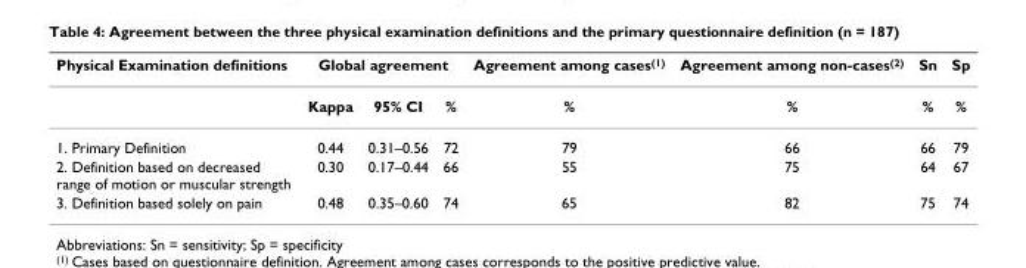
<table><thead><tr><td rowspan="2">Physical Examination definitions</td><td colspan="3">Global agreement</td><td rowspan="2">Agreement among cases(1) %</td><td rowspan="2">Agreement among non-cases(2) %</td><td rowspan="2">Sn %</td><td rowspan="2">Sp %</td></tr><tr><td>Kappa</td><td>95% CI</td><td>%</td></tr></thead><tbody><tr><td>1. Primary Definition</td><td>0.44</td><td>0.31–0.56</td><td>72</td><td>79</td><td>66</td><td>66</td><td>79</td></tr><tr><td>2. Definition based on decreased range of motion or muscular strength</td><td>0.30</td><td>0.17–0.44</td><td>66</td><td>55</td><td>75</td><td>64</td><td>67</td></tr><tr><td>3. Definition based solely on pain</td><td>0.48</td><td>0.35–0.60</td><td>74</td><td>65</td><td>82</td><td>75</td><td>74</td></tr></tbody></table>